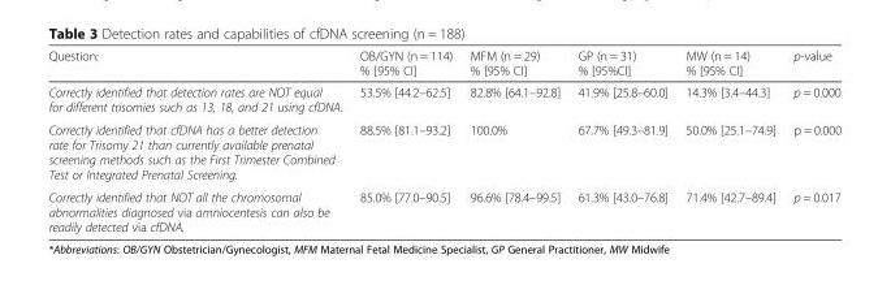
<table><thead><tr><td>Question:</td><td>OB/GYN (n = 114) % [95% CI]</td><td>MFM (n = 29) % [95% CI]</td><td>GP (n = 31) % [95%CI]</td><td>MW (n = 14) % [95% CI]</td><td>p-value</td></tr></thead><tbody><tr><td>Correctly identified that detection rates are NOT equal for different trisomies such as 13, 18, and 21 using cfDNA.</td><td>53.5% [44.2–62.5]</td><td>82.8% [64.1–92.8]</td><td>41.9% [25.8–60.0]</td><td>14.3% [3.4–44.3]</td><td>p = 0.000</td></tr><tr><td>Correctly identified that cfDNA has a better detection rate for Trisomy 21 than currently available prenatal screening methods such as the First Trimester Combined Test or Integrated Prenatal Screening.</td><td>88.5% [81.1–93.2]</td><td>100.0%</td><td>67.7% [49.3–81.9]</td><td>50.0% [25.1–74.9]</td><td>p = 0.000</td></tr><tr><td>Correctly identified that NOT all the chromosomal abnormalities diagnosed via amniocentesis can also be readily detected via cfDNA.</td><td>85.0% [77.0–90.5]</td><td>96.6% [78.4–99.5]</td><td>61.3% [43.0–76.8]</td><td>71.4% [42.7–89.4]</td><td>p = 0.017</td></tr></tbody></table>